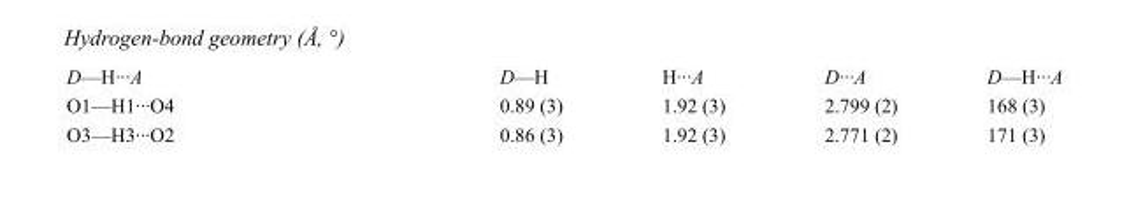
<table><tbody><tr><td>D—H···A</td><td>D—H</td><td>H···A</td><td>D···A</td><td>D—H···A</td></tr><tr><td>O1—H1···O4</td><td>0.89 (3)</td><td>1.92 (3)</td><td>2.799 (2)</td><td>168 (3)</td></tr><tr><td>O3—H3···O2</td><td>0.86 (3)</td><td>1.92 (3)</td><td>2.771 (2)</td><td>171 (3)</td></tr></tbody></table>